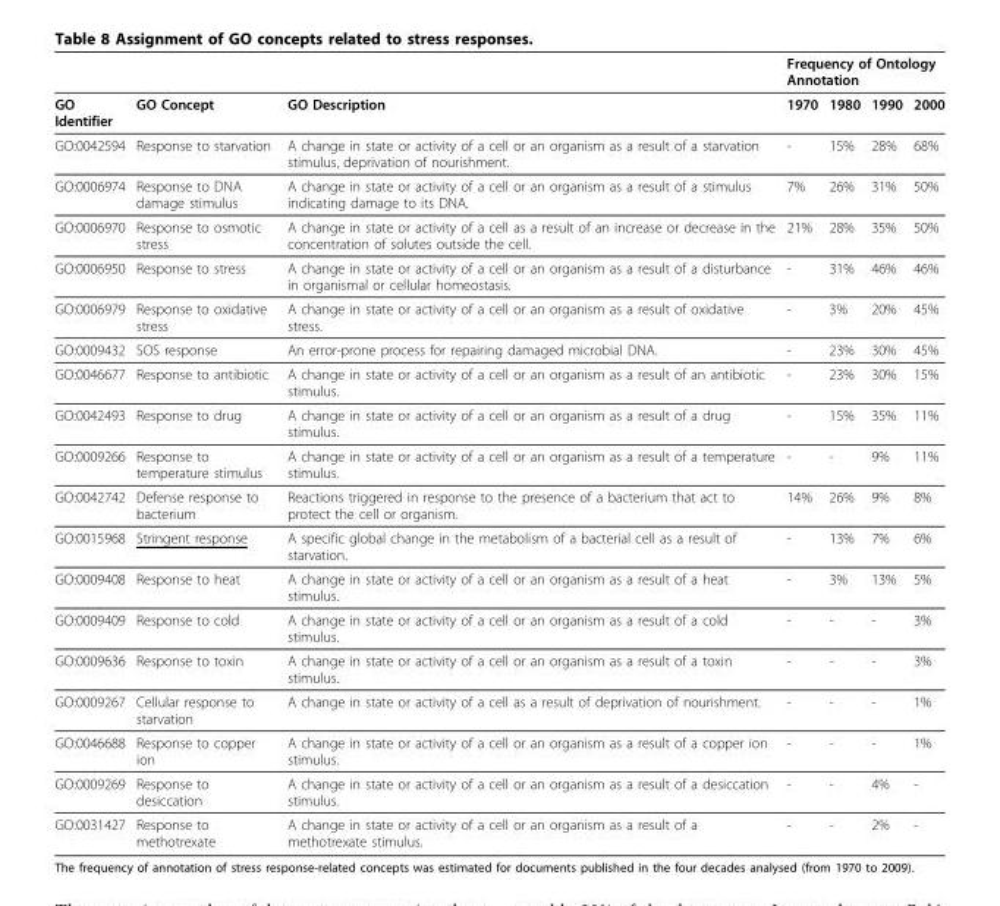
<table><thead><tr><td rowspan="2">GO Identifier</td><td rowspan="2">GO Concept</td><td rowspan="2">GO Description</td><td colspan="4">Frequency of Ontology Annotation</td></tr><tr><td>1970</td><td>1980</td><td>1990</td><td>2000</td></tr></thead><tbody><tr><td>GO:0042594</td><td>Response to starvation</td><td>A change in state or activity of a cell or an organism as a result of a starvation stimulus, deprivation of nourishment.</td><td>-</td><td>15%</td><td>28%</td><td>68%</td></tr><tr><td>GO:0006974</td><td>Response to DNA damage stimulus</td><td>A change in state or activity of a cell or an organism as a result of a stimulus indicating damage to its DNA.</td><td>7%</td><td>26%</td><td>31%</td><td>50%</td></tr><tr><td>GO:0006970</td><td>Response to osmotic stress</td><td>A change in state or activity of a cell as a result of an increase or decrease in the concentration of solutes outside the cell.</td><td>21%</td><td>28%</td><td>35%</td><td>50%</td></tr><tr><td>GO:0006950</td><td>Response to stress</td><td>A change in state or activity of a cell or an organism as a result of a disturbance in organismal or cellular homeostasis.</td><td>-</td><td>31%</td><td>46%</td><td>46%</td></tr><tr><td>GO:0006979</td><td>Response to oxidative stress</td><td>A change in state or activity of a cell or an organism as a result of oxidative stress.</td><td>-</td><td>3%</td><td>20%</td><td>45%</td></tr><tr><td>GO:0009432</td><td>SOS response</td><td>An error-prone process for repairing damaged microbial DNA.</td><td>-</td><td>23%</td><td>30%</td><td>45%</td></tr><tr><td>GO:0046677</td><td>Response to antibiotic</td><td>A change in state or activity of a cell or an organism as a result of an antibiotic stimulus.</td><td>-</td><td>23%</td><td>30%</td><td>15%</td></tr><tr><td>GO:0042493</td><td>Response to drug</td><td>A change in state or activity of a cell or an organism as a result of a drug stimulus.</td><td>-</td><td>15%</td><td>35%</td><td>11%</td></tr><tr><td>GO:0009266</td><td>Response to temperature stimulus</td><td>A change in state or activity of a cell or an organism as a result of a temperature stimulus.</td><td>-</td><td>-</td><td>9%</td><td>11%</td></tr><tr><td>GO:0042742</td><td>Defense response to bacterium</td><td>Reactions triggered in response to the presence of a bacterium that act to protect the cell or organism.</td><td>14%</td><td>26%</td><td>9%</td><td>8%</td></tr><tr><td>GO:0015968</td><td>Stringent response</td><td>A specific global change in the metabolism of a bacterial cell as a result of starvation.</td><td>-</td><td>13%</td><td>7%</td><td>6%</td></tr><tr><td>GO:0009408</td><td>Response to heat</td><td>A change in state or activity of a cell or an organism as a result of a heat stimulus.</td><td>-</td><td>3%</td><td>13%</td><td>5%</td></tr><tr><td>GO:0009409</td><td>Response to cold</td><td>A change in state or activity of a cell or an organism as a result of a cold stimulus.</td><td>-</td><td>-</td><td>-</td><td>3%</td></tr><tr><td>GO:0009636</td><td>Response to toxin</td><td>A change in state or activity of a cell or an organism as a result of a toxin stimulus.</td><td>-</td><td>-</td><td>-</td><td>3%</td></tr><tr><td>GO:0009267</td><td>Cellular response to starvation</td><td>A change in state or activity of a cell as a result of deprivation of nourishment.</td><td>-</td><td>-</td><td>-</td><td>1%</td></tr><tr><td>GO:0046688</td><td>Response to copper ion</td><td>A change in state or activity of a cell or an organism as a result of a copper ion stimulus.</td><td>-</td><td>-</td><td>-</td><td>1%</td></tr><tr><td>GO:0009269</td><td>Response to desiccation</td><td>A change in state or activity of a cell or an organism as a result of a desiccation stimulus.</td><td>-</td><td>-</td><td>4%</td><td>-</td></tr><tr><td>GO:0031427</td><td>Response to methotrexate</td><td>A change in state or activity of a cell or an organism as a result of a methotrexate stimulus.</td><td>-</td><td>-</td><td>2%</td><td>-</td></tr></tbody></table>